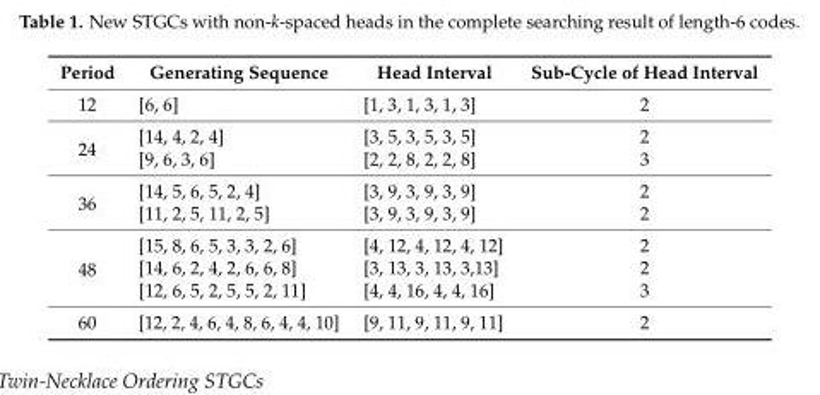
<table><thead><tr><td>Period</td><td>Generating Sequence</td><td>Head Interval</td><td>Sub-Cycle of Head Interval</td></tr></thead><tbody><tr><td>12</td><td>[6, 6]</td><td>[1, 3, 1, 3, 1, 3]</td><td>2</td></tr><tr><td rowspan="2">24</td><td>[14, 4, 2, 4]</td><td>[3, 5, 3, 5, 3, 5]</td><td>2</td></tr><tr><td>[9, 6, 3, 6]</td><td>[2, 2, 8, 2, 2, 8]</td><td>3</td></tr><tr><td rowspan="2">36</td><td>[14, 5, 6, 5, 2, 4]</td><td>[3, 9, 3, 9, 3, 9]</td><td>2</td></tr><tr><td>[11, 2, 5, 11, 2, 5]</td><td>[3, 9, 3, 9, 3, 9]</td><td>2</td></tr><tr><td rowspan="3">48</td><td>[15, 8, 6, 5, 3, 3, 2, 6]</td><td>[4, 12, 4, 12, 4, 12]</td><td>2</td></tr><tr><td>[14, 6, 2, 4, 2, 6, 6, 8]</td><td>[3, 13, 3, 13, 3,13]</td><td>2</td></tr><tr><td>[12, 6, 5, 2, 5, 5, 2, 11]</td><td>[4, 4, 16, 4, 4, 16]</td><td>3</td></tr><tr><td>60</td><td>[12, 2, 4, 6, 4, 8, 6, 4, 4, 10]</td><td>[9, 11, 9, 11, 9, 11]</td><td>2</td></tr></tbody></table>